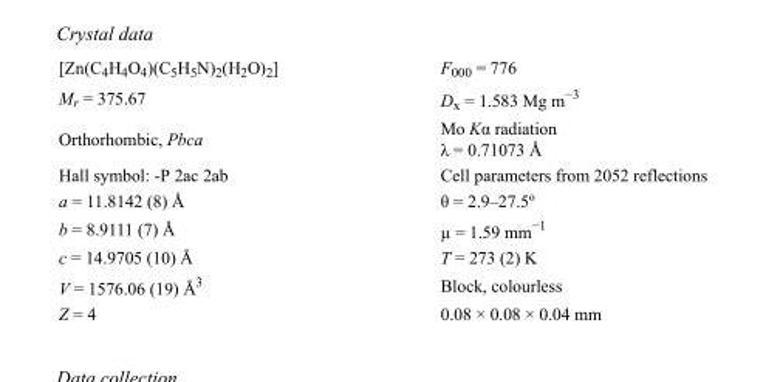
<table><tbody><tr><td>[Zn(C<sub>4</sub>H<sub>4</sub>O<sub>4</sub>)(C<sub>5</sub>H<sub>5</sub>N)<sub>2</sub>(H<sub>2</sub>O)<sub>2</sub>]</td><td>F<sub>000</sub> = 776</td></tr><tr><td>M<sub>r</sub> = 375.67</td><td>D<sub>x</sub> = 1.583 Mg m<sup>−3</sup></td></tr><tr><td>Orthorhombic, Pbca</td><td>Mo Kα radiation λ = 0.71073 Å</td></tr><tr><td>Hall symbol: -P 2ac 2ab</td><td>Cell parameters from 2052 reflections</td></tr><tr><td>a = 11.8142 (8) Å</td><td>θ = 2.9–27.5º</td></tr><tr><td>b = 8.9111 (7) Å</td><td>µ = 1.59 mm<sup>−1</sup></td></tr><tr><td>c = 14.9705 (10) Å</td><td>T = 273 (2) K</td></tr><tr><td>V = 1576.06 (19) Å<sup>3</sup></td><td>Block, colourless</td></tr><tr><td>Z = 4</td><td>0.08 × 0.08 × 0.04 mm</td></tr></tbody></table>